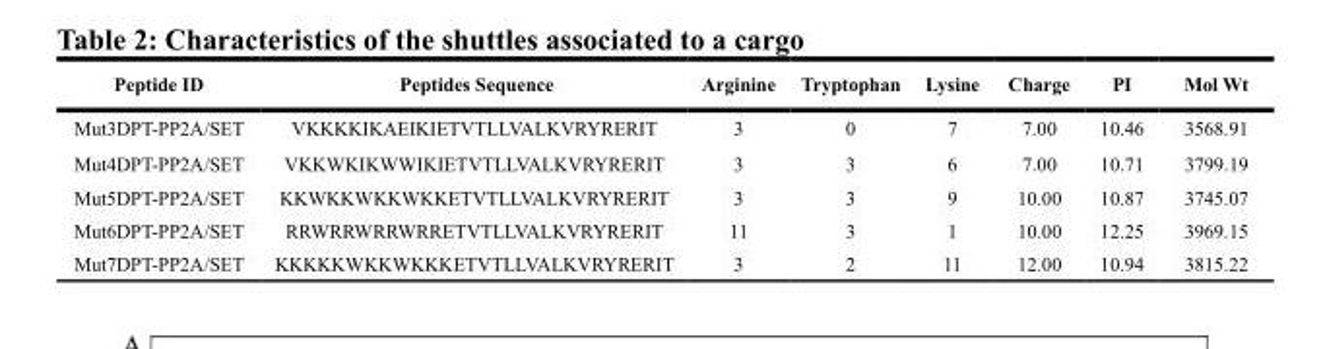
<table><thead><tr><td>Peptide ID</td><td>Peptides Sequence</td><td>Arginine</td><td>Tryptophan</td><td>Lysine</td><td>Charge</td><td>PI</td><td>Mol Wt</td></tr></thead><tbody><tr><td>Mut3DPT-PP2A/SET</td><td>VKKKKIKAEIKIETVTLLVALKVRYRERIT</td><td>3</td><td>0</td><td>7</td><td>7.00</td><td>10.46</td><td>3568.91</td></tr><tr><td>Mut4DPT-PP2A/SET</td><td>VKKWKIKWWIKIETVTLLVALKVRYRERIT</td><td>3</td><td>3</td><td>6</td><td>7.00</td><td>10.71</td><td>3799.19</td></tr><tr><td>Mut5DPT-PP2A/SET</td><td>KKWKKWKKWKKETVTLLVALKVRYRERIT</td><td>3</td><td>3</td><td>9</td><td>10.00</td><td>10.87</td><td>3745.07</td></tr><tr><td>Mut6DPT-PP2A/SET</td><td>RRWRRWRRWRRETVTLLVALKVRYRERIT</td><td>11</td><td>3</td><td>1</td><td>10.00</td><td>12.25</td><td>3969.15</td></tr><tr><td>Mut7DPT-PP2A/SET</td><td>KKKKKWKKWKKKETVTLLVALKVRYRERIT</td><td>3</td><td>2</td><td>11</td><td>12.00</td><td>10.94</td><td>3815.22</td></tr></tbody></table>